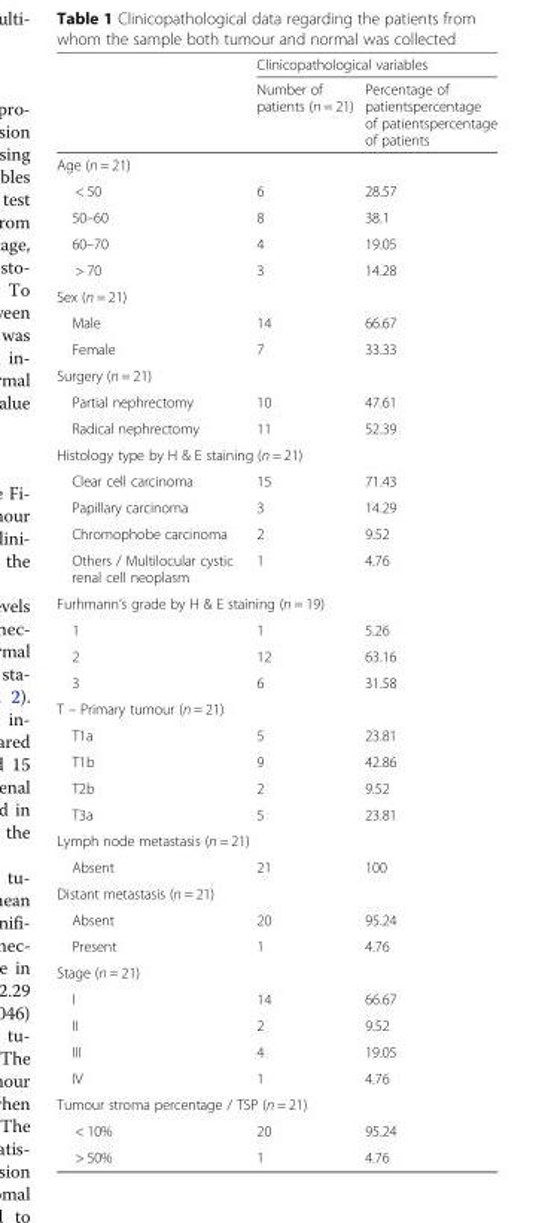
<table><thead><tr><td rowspan="2"></td><td colspan="2">Clinicopathological variables</td></tr><tr><td>Number of patients (n = 21)</td><td>Percentage of patientspercentage of patientspercentage of patients</td></tr></thead><tbody><tr><td colspan="3">Age (n = 21)</td></tr><tr><td>&lt; 50</td><td>6</td><td>28.57</td></tr><tr><td>50–60</td><td>8</td><td>38.1</td></tr><tr><td>60–70</td><td>4</td><td>19.05</td></tr><tr><td>&gt; 70</td><td>3</td><td>14.28</td></tr><tr><td colspan="3">Sex (n = 21)</td></tr><tr><td>Male</td><td>14</td><td>66.67</td></tr><tr><td>Female</td><td>7</td><td>33.33</td></tr><tr><td colspan="3">Surgery (n = 21)</td></tr><tr><td>Partial nephrectomy</td><td>10</td><td>47.61</td></tr><tr><td>Radical nephrectomy</td><td>11</td><td>52.39</td></tr><tr><td colspan="3">Histology type by H &amp; E staining (n = 21)</td></tr><tr><td>Clear cell carcinoma</td><td>15</td><td>71.43</td></tr><tr><td>Papillary carcinoma</td><td>3</td><td>14.29</td></tr><tr><td>Chromophobe carcinoma</td><td>2</td><td>9.52</td></tr><tr><td>Others / Multilocular cystic renal cell neoplasm</td><td>1</td><td>4.76</td></tr><tr><td colspan="3">Furhmann’s grade by H &amp; E staining (n = 19)</td></tr><tr><td>1</td><td>1</td><td>5.26</td></tr><tr><td>2</td><td>12</td><td>63.16</td></tr><tr><td>3</td><td>6</td><td>31.58</td></tr><tr><td colspan="3">T – Primary tumour (n = 21)</td></tr><tr><td>T1a</td><td>5</td><td>23.81</td></tr><tr><td>T1b</td><td>9</td><td>42.86</td></tr><tr><td>T2b</td><td>2</td><td>9.52</td></tr><tr><td>T3a</td><td>5</td><td>23.81</td></tr><tr><td colspan="3">Lymph node metastasis (n = 21)</td></tr><tr><td>Absent</td><td>21</td><td>100</td></tr><tr><td colspan="3">Distant metastasis (n = 21)</td></tr><tr><td>Absent</td><td>20</td><td>95.24</td></tr><tr><td>Present</td><td>1</td><td>4.76</td></tr><tr><td colspan="3">Stage (n = 21)</td></tr><tr><td>I</td><td>14</td><td>66.67</td></tr><tr><td>II</td><td>2</td><td>9.52</td></tr><tr><td>III</td><td>4</td><td>19.05</td></tr><tr><td>IV</td><td>1</td><td>4.76</td></tr><tr><td colspan="3">Tumour stroma percentage / TSP (n = 21)</td></tr><tr><td>&lt; 10%</td><td>20</td><td>95.24</td></tr><tr><td>&gt; 50%</td><td>1</td><td>4.76</td></tr></tbody></table>